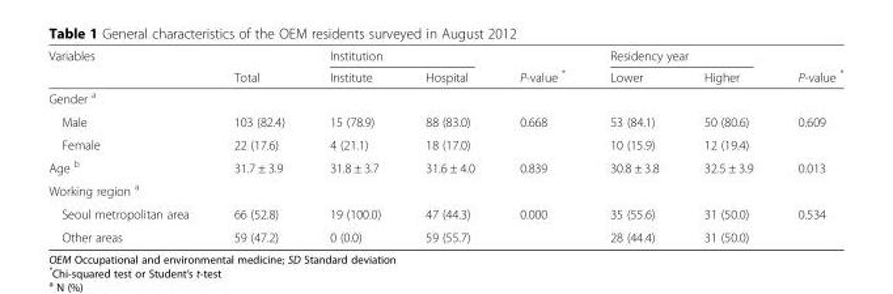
<table><thead><tr><td rowspan="2">Variables</td><td rowspan="2">Total</td><td colspan="2">Institution</td><td rowspan="2">P-value *</td><td colspan="2">Residency year</td><td rowspan="2">P-value *</td></tr><tr><td>Institute</td><td>Hospital</td><td>Lower</td><td>Higher</td></tr></thead><tbody><tr><td colspan="8">Gender <sup>a</sup></td></tr><tr><td>Male</td><td>103 (82.4)</td><td>15 (78.9)</td><td>88 (83.0)</td><td>0.668</td><td>53 (84.1)</td><td>50 (80.6)</td><td>0.609</td></tr><tr><td>Female</td><td>22 (17.6)</td><td>4 (21.1)</td><td>18 (17.0)</td><td></td><td>10 (15.9)</td><td>12 (19.4)</td><td></td></tr><tr><td>Age <sup>b</sup></td><td>31.7 ± 3.9</td><td>31.8 ± 3.7</td><td>31.6 ± 4.0</td><td>0.839</td><td>30.8 ± 3.8</td><td>32.5 ± 3.9</td><td>0.013</td></tr><tr><td colspan="8">Working region <sup>a</sup></td></tr><tr><td>Seoul metropolitan area</td><td>66 (52.8)</td><td>19 (100.0)</td><td>47 (44.3)</td><td>0.000</td><td>35 (55.6)</td><td>31 (50.0)</td><td>0.534</td></tr><tr><td>Other areas</td><td>59 (47.2)</td><td>0 (0.0)</td><td>59 (55.7)</td><td></td><td>28 (44.4)</td><td>31 (50.0)</td><td></td></tr></tbody></table>